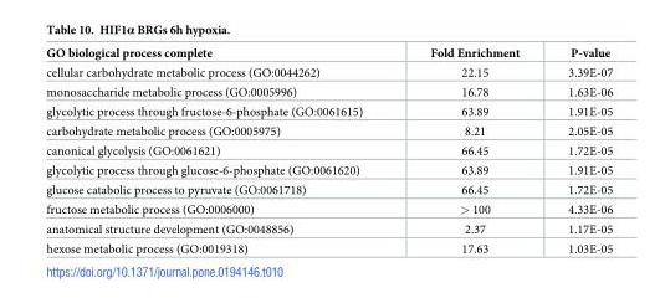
<table><thead><tr><td>GO biological process complete</td><td>Fold Enrichment</td><td>P-value</td></tr></thead><tbody><tr><td>cellular carbohydrate metabolic process (GO:0044262)</td><td>22.15</td><td>3.39E-07</td></tr><tr><td>monosaccharide metabolic process (GO:0005996)</td><td>16.78</td><td>1.63E-06</td></tr><tr><td>glycolytic process through fructose-6-phosphate (GO:0061615)</td><td>63.89</td><td>1.91E-05</td></tr><tr><td>carbohydrate metabolic process (GO:0005975)</td><td>8.21</td><td>2.05E-05</td></tr><tr><td>canonical glycolysis (GO:0061621)</td><td>66.45</td><td>1.72E-05</td></tr><tr><td>glycolytic process through glucose-6-phosphate (GO:0061620)</td><td>63.89</td><td>1.91E-05</td></tr><tr><td>glucose catabolic process to pyruvate (GO:0061718)</td><td>66.45</td><td>1.72E-05</td></tr><tr><td>fructose metabolic process (GO:0006000)</td><td>&gt; 100</td><td>4.33E-06</td></tr><tr><td>anatomical structure development (GO:0048856)</td><td>2.37</td><td>1.17E-05</td></tr><tr><td>hexose metabolic process (GO:0019318)</td><td>17.63</td><td>1.03E-05</td></tr></tbody></table>